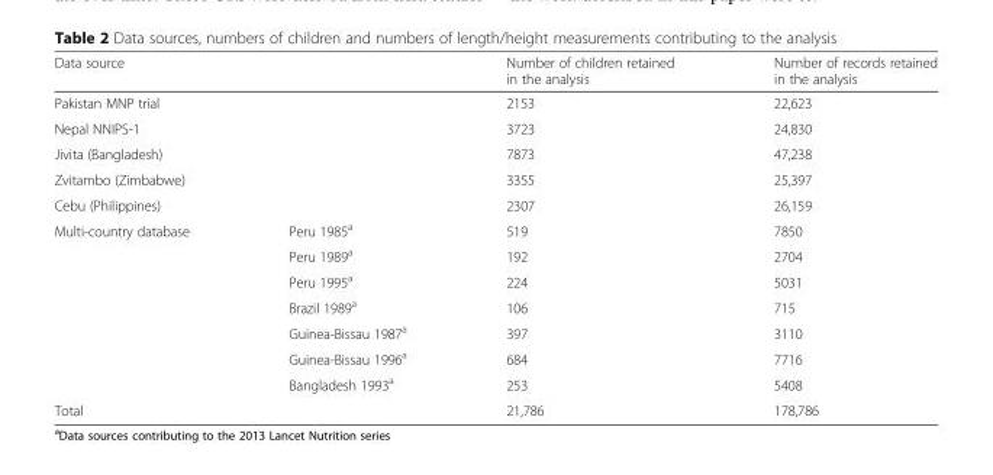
<table><thead><tr><td>Data source</td><td></td><td>Number of children retained in the analysis</td><td>Number of records retained in the analysis</td></tr></thead><tbody><tr><td colspan="2">Pakistan MNP trial</td><td>2153</td><td>22,623</td></tr><tr><td colspan="2">Nepal NNIPS-1</td><td>3723</td><td>24,830</td></tr><tr><td colspan="2">Jivita (Bangladesh)</td><td>7873</td><td>47,238</td></tr><tr><td colspan="2">Zvitambo (Zimbabwe)</td><td>3355</td><td>25,397</td></tr><tr><td colspan="2">Cebu (Philippines)</td><td>2307</td><td>26,159</td></tr><tr><td rowspan="7">Multi-country database</td><td>Peru 1985<sup>a</sup></td><td>519</td><td>7850</td></tr><tr><td>Peru 1989<sup>a</sup></td><td>192</td><td>2704</td></tr><tr><td>Peru 1995<sup>a</sup></td><td>224</td><td>5031</td></tr><tr><td>Brazil 1989<sup>a</sup></td><td>106</td><td>715</td></tr><tr><td>Guinea-Bissau 1987<sup>a</sup></td><td>397</td><td>3110</td></tr><tr><td>Guinea-Bissau 1996<sup>a</sup></td><td>684</td><td>7716</td></tr><tr><td>Bangladesh 1993<sup>a</sup></td><td>253</td><td>5408</td></tr><tr><td>Total</td><td></td><td>21,786</td><td>178,786</td></tr></tbody></table>